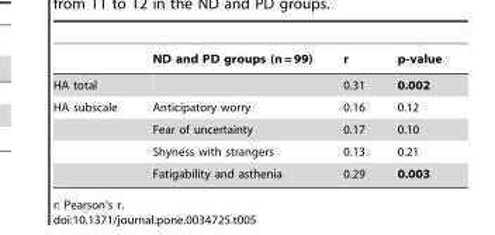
<table><thead><tr><td></td><td>ND and PD groups (n = 99)</td><td>r</td><td>p-value</td></tr></thead><tbody><tr><td>HA total</td><td></td><td>0.31</td><td>0.002</td></tr><tr><td rowspan="4">HA subscale</td><td>Anticipatory worry</td><td>0.16</td><td>0.12</td></tr><tr><td>Fear of uncertainty</td><td>0.17</td><td>0.10</td></tr><tr><td>Shyness with strangers</td><td>0.13</td><td>0.21</td></tr><tr><td>Fatigability and asthenia</td><td>0.29</td><td>0.003</td></tr></tbody></table>